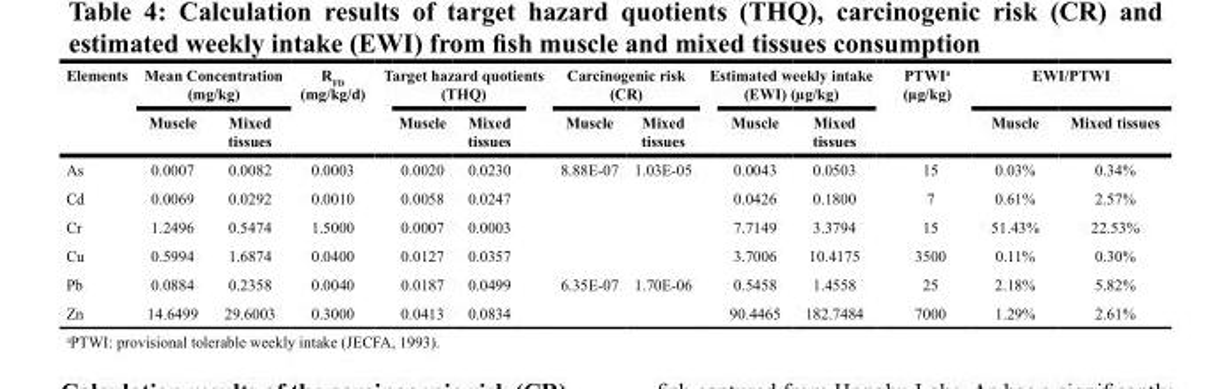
<table><thead><tr><td rowspan="2">Elements</td><td colspan="2">Mean Concentration (mg/kg)</td><td rowspan="2">R<sub>FD</sub> (mg/kg/d)</td><td colspan="2">Target hazard quotients (THQ)</td><td colspan="2">Carcinogenic risk (CR)</td><td colspan="2">Estimated weekly intake (EWI) (µg/kg)</td><td rowspan="2">PTWI<sup>a</sup> (µg/kg)</td><td colspan="2">EWI/PTWI</td></tr><tr><td>Muscle</td><td>Mixed tissues</td><td>Muscle</td><td>Mixed tissues</td><td>Muscle</td><td>Mixed tissues</td><td>Muscle</td><td>Mixed tissues</td><td>Muscle</td><td>Mixed tissues</td></tr></thead><tbody><tr><td>As</td><td>0.0007</td><td>0.0082</td><td>0.0003</td><td>0.0020</td><td>0.0230</td><td>8.88E-07</td><td>1.03E-05</td><td>0.0043</td><td>0.0503</td><td>15</td><td>0.03%</td><td>0.34%</td></tr><tr><td>Cd</td><td>0.0069</td><td>0.0292</td><td>0.0010</td><td>0.0058</td><td>0.0247</td><td></td><td></td><td>0.0426</td><td>0.1800</td><td>7</td><td>0.61%</td><td>2.57%</td></tr><tr><td>Cr</td><td>1.2496</td><td>0.5474</td><td>1.5000</td><td>0.0007</td><td>0.0003</td><td></td><td></td><td>7.7149</td><td>3.3794</td><td>15</td><td>51.43%</td><td>22.53%</td></tr><tr><td>Cu</td><td>0.5994</td><td>1.6874</td><td>0.0400</td><td>0.0127</td><td>0.0357</td><td></td><td></td><td>3.7006</td><td>10.4175</td><td>3500</td><td>0.11%</td><td>0.30%</td></tr><tr><td>Pb</td><td>0.0884</td><td>0.2358</td><td>0.0040</td><td>0.0187</td><td>0.0499</td><td>6.35E-07</td><td>1.70E-06</td><td>0.5458</td><td>1.4558</td><td>25</td><td>2.18%</td><td>5.82%</td></tr><tr><td>Zn</td><td>14.6499</td><td>29.6003</td><td>0.3000</td><td>0.0413</td><td>0.0834</td><td></td><td></td><td>90.4465</td><td>182.7484</td><td>7000</td><td>1.29%</td><td>2.61%</td></tr></tbody></table>